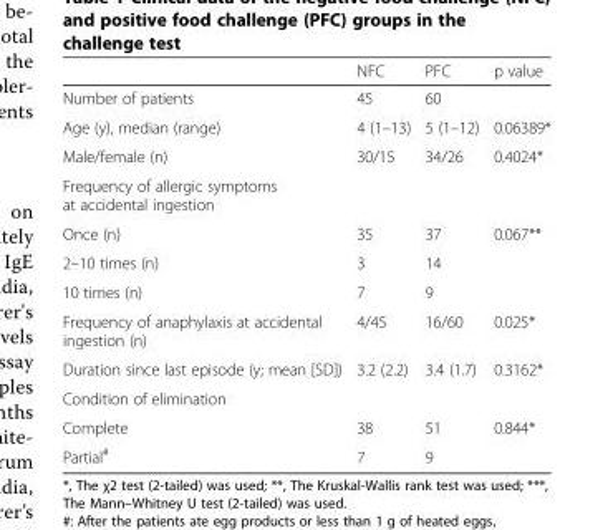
<table><thead><tr><td></td><td>NFC</td><td>PFC</td><td>p value</td></tr></thead><tbody><tr><td>Number of patients</td><td>45</td><td>60</td><td></td></tr><tr><td>Age (y), median (range)</td><td>4 (1–13)</td><td>5 (1–12)</td><td>0.06389*</td></tr><tr><td>Male/female (n)</td><td>30/15</td><td>34/26</td><td>0.4024*</td></tr><tr><td colspan="4">Frequency of allergic symptoms at accidental ingestion</td></tr><tr><td>Once (n)</td><td>35</td><td>37</td><td>0.067**</td></tr><tr><td>2–10 times (n)</td><td>3</td><td>14</td><td></td></tr><tr><td>10 times (n)</td><td>7</td><td>9</td><td></td></tr><tr><td>Frequency of anaphylaxis at accidental ingestion (n)</td><td>4/45</td><td>16/60</td><td>0.025*</td></tr><tr><td>Duration since last episode (y; mean [SD])</td><td>3.2 (2.2)</td><td>3.4 (1.7)</td><td>0.3162*</td></tr><tr><td colspan="4">Condition of elimination</td></tr><tr><td>Complete</td><td>38</td><td>51</td><td>0.844*</td></tr><tr><td>Partial<sup>#</sup></td><td>7</td><td>9</td><td></td></tr></tbody></table>